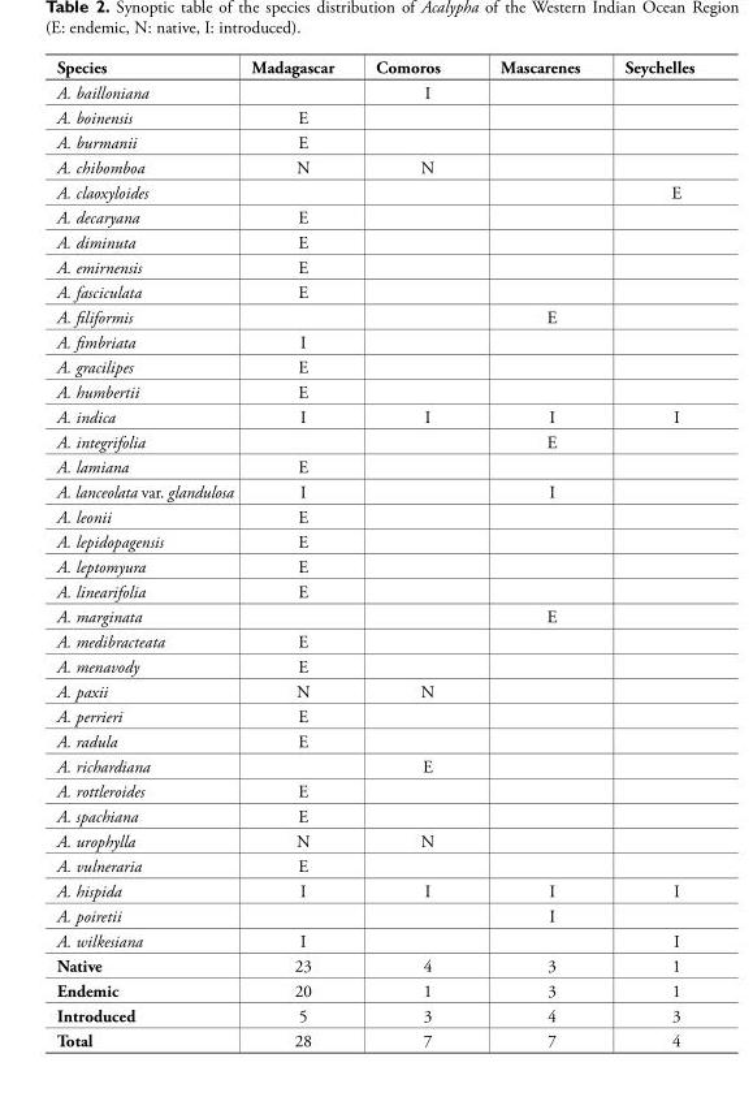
<table><thead><tr><td>Species</td><td>Madagascar</td><td>Comoros</td><td>Mascarenes</td><td>Seychelles</td></tr></thead><tbody><tr><td>A. bailloniana</td><td></td><td>I</td><td></td><td></td></tr><tr><td>A. boinensis</td><td>E</td><td></td><td></td><td></td></tr><tr><td>A. burmanii</td><td>E</td><td></td><td></td><td></td></tr><tr><td>A. chibomboa</td><td>N</td><td>N</td><td></td><td></td></tr><tr><td>A. claoxyloides</td><td></td><td></td><td></td><td>E</td></tr><tr><td>A. decaryana</td><td>E</td><td></td><td></td><td></td></tr><tr><td>A. diminuta</td><td>E</td><td></td><td></td><td></td></tr><tr><td>A. emirnensis</td><td>E</td><td></td><td></td><td></td></tr><tr><td>A. fasciculata</td><td>E</td><td></td><td></td><td></td></tr><tr><td>A. filiformis</td><td></td><td></td><td>E</td><td></td></tr><tr><td>A. fimbriata</td><td>I</td><td></td><td></td><td></td></tr><tr><td>A. gracilipes</td><td>E</td><td></td><td></td><td></td></tr><tr><td>A. humbertii</td><td>E</td><td></td><td></td><td></td></tr><tr><td>A. indica</td><td>I</td><td>I</td><td>I</td><td>I</td></tr><tr><td>A. integrifolia</td><td></td><td></td><td>E</td><td></td></tr><tr><td>A. lamiana</td><td>E</td><td></td><td></td><td></td></tr><tr><td>A. lanceolata var. glandulosa</td><td>I</td><td></td><td>I</td><td></td></tr><tr><td>A. leonii</td><td>E</td><td></td><td></td><td></td></tr><tr><td>A. lepidopagensis</td><td>E</td><td></td><td></td><td></td></tr><tr><td>A. leptomyura</td><td>E</td><td></td><td></td><td></td></tr><tr><td>A. linearifolia</td><td>E</td><td></td><td></td><td></td></tr><tr><td>A. marginata</td><td></td><td></td><td>E</td><td></td></tr><tr><td>A. medibracteata</td><td>E</td><td></td><td></td><td></td></tr><tr><td>A. menavody</td><td>E</td><td></td><td></td><td></td></tr><tr><td>A. paxii</td><td>N</td><td>N</td><td></td><td></td></tr><tr><td>A. perrieri</td><td>E</td><td></td><td></td><td></td></tr><tr><td>A. radula</td><td>E</td><td></td><td></td><td></td></tr><tr><td>A. richardiana</td><td></td><td>E</td><td></td><td></td></tr><tr><td>A. rottleroides</td><td>E</td><td></td><td></td><td></td></tr><tr><td>A. spachiana</td><td>E</td><td></td><td></td><td></td></tr><tr><td>A. urophylla</td><td>N</td><td>N</td><td></td><td></td></tr><tr><td>A. vulneraria</td><td>E</td><td></td><td></td><td></td></tr><tr><td>A. hispida</td><td>I</td><td>I</td><td>I</td><td>I</td></tr><tr><td>A. poiretii</td><td></td><td></td><td>I</td><td></td></tr><tr><td>A. wilkesiana</td><td>I</td><td></td><td></td><td>I</td></tr><tr><td>Native</td><td>23</td><td>4</td><td>3</td><td>1</td></tr><tr><td>Endemic</td><td>20</td><td>1</td><td>3</td><td>1</td></tr><tr><td>Introduced</td><td>5</td><td>3</td><td>4</td><td>3</td></tr><tr><td>Total</td><td>28</td><td>7</td><td>7</td><td>4</td></tr></tbody></table>